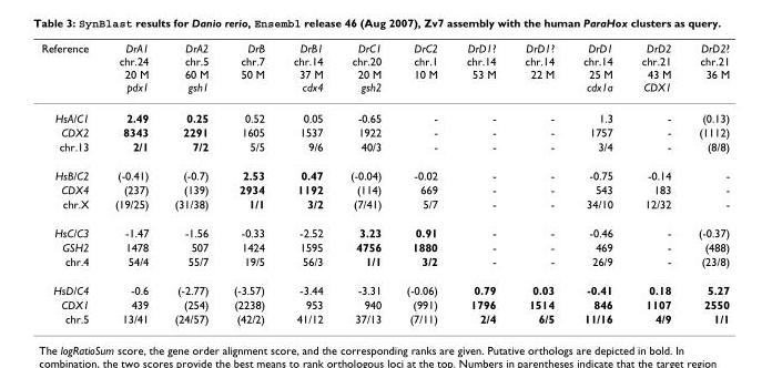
<table><thead><tr><td>Reference</td><td>DrA1 chr.24 20 M pdx1</td><td>DrA2 chr.5 60 M gsh1</td><td>DrB chr.7 50 M</td><td>DrB1 chr.14 37 M cdx4</td><td>DrC1 chr.20 20 M gsh2</td><td>DrC2 chr.1 10 M</td><td>DrD1? chr.14 53 M</td><td>DrD1? chr.14 22 M</td><td>DrD1 chr.14 25 M cdx1a</td><td>DrD2 chr.21 43 M CDX1</td><td>DrD2? chr.21 36 M</td></tr></thead><tbody><tr><td>HsA/C1</td><td>2.49</td><td>0.25</td><td>0.52</td><td>0.05</td><td>-0.65</td><td>-</td><td>-</td><td>-</td><td>1.3</td><td>-</td><td>(0.13)</td></tr><tr><td>CDX2</td><td>8343</td><td>2291</td><td>1605</td><td>1537</td><td>1922</td><td>-</td><td>-</td><td>-</td><td>1757</td><td>-</td><td>(1112)</td></tr><tr><td>chr.13</td><td>2/1</td><td>7/2</td><td>5/5</td><td>9/6</td><td>40/3</td><td>-</td><td>-</td><td>-</td><td>3/4</td><td>-</td><td>(8/8)</td></tr><tr><td>HsB/C2</td><td>(-0.41)</td><td>(-0.7)</td><td>2.53</td><td>0.47</td><td>(-0.04)</td><td>-0.02</td><td>-</td><td>-</td><td>-0.75</td><td>-0.14</td><td>-</td></tr><tr><td>CDX4</td><td>(237)</td><td>(139)</td><td>2934</td><td>1192</td><td>(114)</td><td>669</td><td>-</td><td>-</td><td>543</td><td>183</td><td>-</td></tr><tr><td>chr.X</td><td>(19/25)</td><td>(31/38)</td><td>1/1</td><td>3/2</td><td>(7/41)</td><td>5/7</td><td>-</td><td>-</td><td>34/10</td><td>12/32</td><td>-</td></tr><tr><td>HsC/C3</td><td>-1.47</td><td>-1.56</td><td>-0.33</td><td>-2.52</td><td>3.23</td><td>0.91</td><td>-</td><td>-</td><td>-0.46</td><td>-</td><td>(-0.37)</td></tr><tr><td>GSH2</td><td>1478</td><td>507</td><td>1424</td><td>1595</td><td>4756</td><td>1880</td><td>-</td><td>-</td><td>469</td><td>-</td><td>(488)</td></tr><tr><td>chr.4</td><td>54/4</td><td>55/7</td><td>19/5</td><td>56/3</td><td>1/1</td><td>3/2</td><td>-</td><td>-</td><td>26/9</td><td>-</td><td>(23/8)</td></tr><tr><td>HsD/C4</td><td>-0.6</td><td>(-2.77)</td><td>(-3.57)</td><td>-3.44</td><td>-3.31</td><td>(-0.06)</td><td>0.79</td><td>0.03</td><td>-0.41</td><td>0.18</td><td>5.27</td></tr><tr><td>CDX1</td><td>439</td><td>(254)</td><td>(2238)</td><td>953</td><td>940</td><td>(991)</td><td>1796</td><td>1514</td><td>846</td><td>1107</td><td>2550</td></tr><tr><td>chr.5</td><td>13/41</td><td>(24/57)</td><td>(42/2)</td><td>41/12</td><td>37/13</td><td>(7/11)</td><td>2/4</td><td>6/5</td><td>11/16</td><td>4/9</td><td>1/1</td></tr></tbody></table>